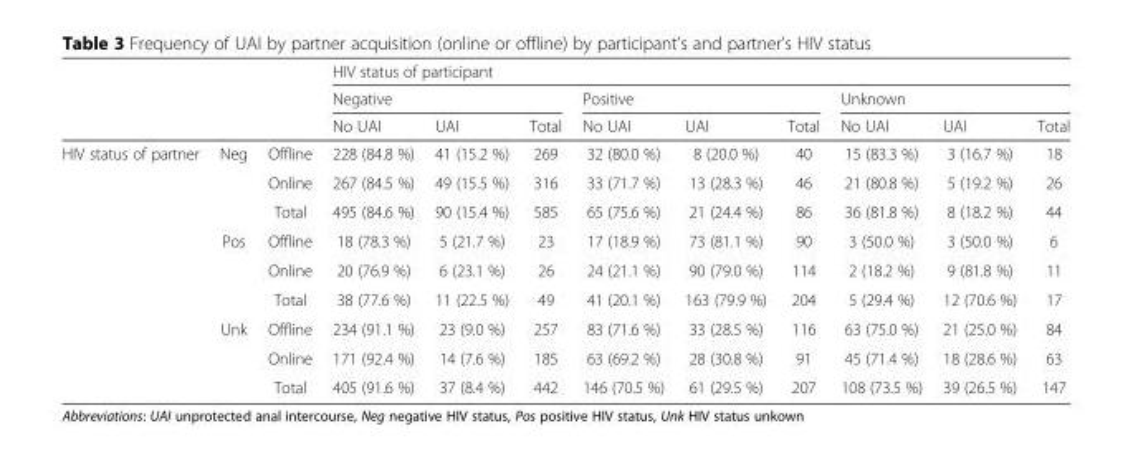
<table><thead><tr><td rowspan="3"></td><td rowspan="3"></td><td rowspan="3"></td><td colspan="9">HIV status of participant</td></tr><tr><td colspan="3">Negative</td><td colspan="3">Positive</td><td colspan="3">Unknown</td></tr><tr><td>No UAI</td><td>UAI</td><td>Total</td><td>No UAI</td><td>UAI</td><td>Total</td><td>No UAI</td><td>UAI</td><td>Total</td></tr></thead><tbody><tr><td rowspan="9">HIV status of partner</td><td rowspan="3">Neg</td><td>Offline</td><td>228 (84.8 %)</td><td>41 (15.2 %)</td><td>269</td><td>32 (80.0 %)</td><td>8 (20.0 %)</td><td>40</td><td>15 (83.3 %)</td><td>3 (16.7 %)</td><td>18</td></tr><tr><td>Online</td><td>267 (84.5 %)</td><td>49 (15.5 %)</td><td>316</td><td>33 (71.7 %)</td><td>13 (28.3 %)</td><td>46</td><td>21 (80.8 %)</td><td>5 (19.2 %)</td><td>26</td></tr><tr><td>Total</td><td>495 (84.6 %)</td><td>90 (15.4 %)</td><td>585</td><td>65 (75.6 %)</td><td>21 (24.4 %)</td><td>86</td><td>36 (81.8 %)</td><td>8 (18.2 %)</td><td>44</td></tr><tr><td rowspan="3">Pos</td><td>Offline</td><td>18 (78.3 %)</td><td>5 (21.7 %)</td><td>23</td><td>17 (18.9 %)</td><td>73 (81.1 %)</td><td>90</td><td>3 (50.0 %)</td><td>3 (50.0 %)</td><td>6</td></tr><tr><td>Online</td><td>20 (76.9 %)</td><td>6 (23.1 %)</td><td>26</td><td>24 (21.1 %)</td><td>90 (79.0 %)</td><td>114</td><td>2 (18.2 %)</td><td>9 (81.8 %)</td><td>11</td></tr><tr><td>Total</td><td>38 (77.6 %)</td><td>11 (22.5 %)</td><td>49</td><td>41 (20.1 %)</td><td>163 (79.9 %)</td><td>204</td><td>5 (29.4 %)</td><td>12 (70.6 %)</td><td>17</td></tr><tr><td rowspan="3">Unk</td><td>Offline</td><td>234 (91.1 %)</td><td>23 (9.0 %)</td><td>257</td><td>83 (71.6 %)</td><td>33 (28.5 %)</td><td>116</td><td>63 (75.0 %)</td><td>21 (25.0 %)</td><td>84</td></tr><tr><td>Online</td><td>171 (92.4 %)</td><td>14 (7.6 %)</td><td>185</td><td>63 (69.2 %)</td><td>28 (30.8 %)</td><td>91</td><td>45 (71.4 %)</td><td>18 (28.6 %)</td><td>63</td></tr><tr><td>Total</td><td>405 (91.6 %)</td><td>37 (8.4 %)</td><td>442</td><td>146 (70.5 %)</td><td>61 (29.5 %)</td><td>207</td><td>108 (73.5 %)</td><td>39 (26.5 %)</td><td>147</td></tr></tbody></table>